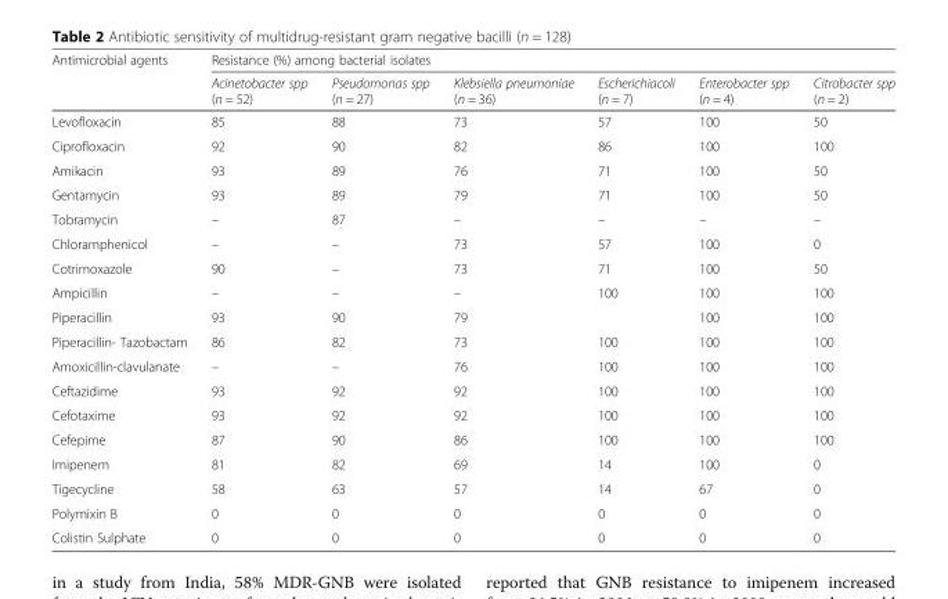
<table><thead><tr><td rowspan="2">Antimicrobial agents</td><td colspan="6">Resistance (%) among bacterial isolates</td></tr><tr><td>Acinetobacter spp (n = 52)</td><td>Pseudomonas spp (n = 27)</td><td>Klebsiella pneumoniae (n = 36)</td><td>Escherichiacoli (n = 7)</td><td>Enterobacter spp (n = 4)</td><td>Citrobacter spp (n = 2)</td></tr></thead><tbody><tr><td>Levofloxacin</td><td>85</td><td>88</td><td>73</td><td>57</td><td>100</td><td>50</td></tr><tr><td>Ciprofloxacin</td><td>92</td><td>90</td><td>82</td><td>86</td><td>100</td><td>100</td></tr><tr><td>Amikacin</td><td>93</td><td>89</td><td>76</td><td>71</td><td>100</td><td>50</td></tr><tr><td>Gentamycin</td><td>93</td><td>89</td><td>79</td><td>71</td><td>100</td><td>50</td></tr><tr><td>Tobramycin</td><td>–</td><td>87</td><td>–</td><td>–</td><td>–</td><td>–</td></tr><tr><td>Chloramphenicol</td><td>–</td><td>–</td><td>73</td><td>57</td><td>100</td><td>0</td></tr><tr><td>Cotrimoxazole</td><td>90</td><td>–</td><td>73</td><td>71</td><td>100</td><td>50</td></tr><tr><td>Ampicillin</td><td>–</td><td>–</td><td>–</td><td>100</td><td>100</td><td>100</td></tr><tr><td>Piperacillin</td><td>93</td><td>90</td><td>79</td><td></td><td>100</td><td>100</td></tr><tr><td>Piperacillin- Tazobactam</td><td>86</td><td>82</td><td>73</td><td>100</td><td>100</td><td>100</td></tr><tr><td>Amoxicillin-clavulanate</td><td>–</td><td>–</td><td>76</td><td>100</td><td>100</td><td>100</td></tr><tr><td>Ceftazidime</td><td>93</td><td>92</td><td>92</td><td>100</td><td>100</td><td>100</td></tr><tr><td>Cefotaxime</td><td>93</td><td>92</td><td>92</td><td>100</td><td>100</td><td>100</td></tr><tr><td>Cefepime</td><td>87</td><td>90</td><td>86</td><td>100</td><td>100</td><td>100</td></tr><tr><td>Imipenem</td><td>81</td><td>82</td><td>69</td><td>14</td><td>100</td><td>0</td></tr><tr><td>Tigecycline</td><td>58</td><td>63</td><td>57</td><td>14</td><td>67</td><td>0</td></tr><tr><td>Polymixin B</td><td>0</td><td>0</td><td>0</td><td>0</td><td>0</td><td>0</td></tr><tr><td>Colistin Sulphate</td><td>0</td><td>0</td><td>0</td><td>0</td><td>0</td><td>0</td></tr></tbody></table>